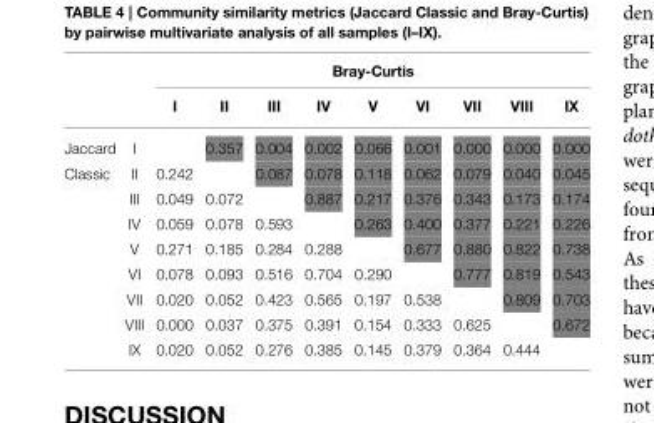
<table><thead><tr><td rowspan="2"></td><td rowspan="2"></td><td colspan="9">Bray-Curtis</td></tr><tr><td>I</td><td>II</td><td>III</td><td>IV</td><td>V</td><td>VI</td><td>VII</td><td>VIII</td><td>IX</td></tr></thead><tbody><tr><td>Jaccard</td><td>I</td><td></td><td>0.357</td><td>0.004</td><td>0.002</td><td>0.066</td><td>0.001</td><td>0.000</td><td>0.000</td><td>0.000</td></tr><tr><td rowspan="8">Classic</td><td>II</td><td>0.242</td><td></td><td>0.087</td><td>0.078</td><td>0.118</td><td>0.062</td><td>0.079</td><td>0.040</td><td>0.045</td></tr><tr><td>III</td><td>0.049</td><td>0.072</td><td></td><td>0.887</td><td>0.217</td><td>0.376</td><td>0.343</td><td>0.173</td><td>0.174</td></tr><tr><td>IV</td><td>0.059</td><td>0.078</td><td>0.593</td><td></td><td>0.263</td><td>0.400</td><td>0.377</td><td>0.221</td><td>0.226</td></tr><tr><td>V</td><td>0.271</td><td>0.185</td><td>0.284</td><td>0.288</td><td></td><td>0.677</td><td>0.880</td><td>0.822</td><td>0.738</td></tr><tr><td>VI</td><td>0.078</td><td>0.093</td><td>0.516</td><td>0.704</td><td>0.290</td><td></td><td>0.777</td><td>0.819</td><td>0.543</td></tr><tr><td>VII</td><td>0.020</td><td>0.052</td><td>0.423</td><td>0.565</td><td>0.197</td><td>0.538</td><td></td><td>0.809</td><td>0.703</td></tr><tr><td>VIII</td><td>0.000</td><td>0.037</td><td>0.375</td><td>0.391</td><td>0.154</td><td>0.333</td><td>0.625</td><td></td><td>0.672</td></tr><tr><td>IX</td><td>0.020</td><td>0.052</td><td>0.276</td><td>0.385</td><td>0.145</td><td>0.379</td><td>0.364</td><td>0.444</td><td></td></tr></tbody></table>